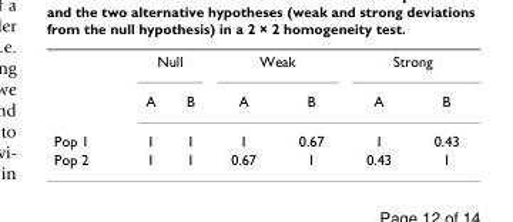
<table><thead><tr><td rowspan="2"></td><td colspan="2">Null</td><td colspan="2">Weak</td><td colspan="2">Strong</td></tr><tr><td>A</td><td>B</td><td>A</td><td>B</td><td>A</td><td>B</td></tr></thead><tbody><tr><td>Pop 1</td><td>1</td><td>1</td><td>1</td><td>0.67</td><td>1</td><td>0.43</td></tr><tr><td>Pop 2</td><td>1</td><td>1</td><td>0.67</td><td>1</td><td>0.43</td><td>1</td></tr></tbody></table>